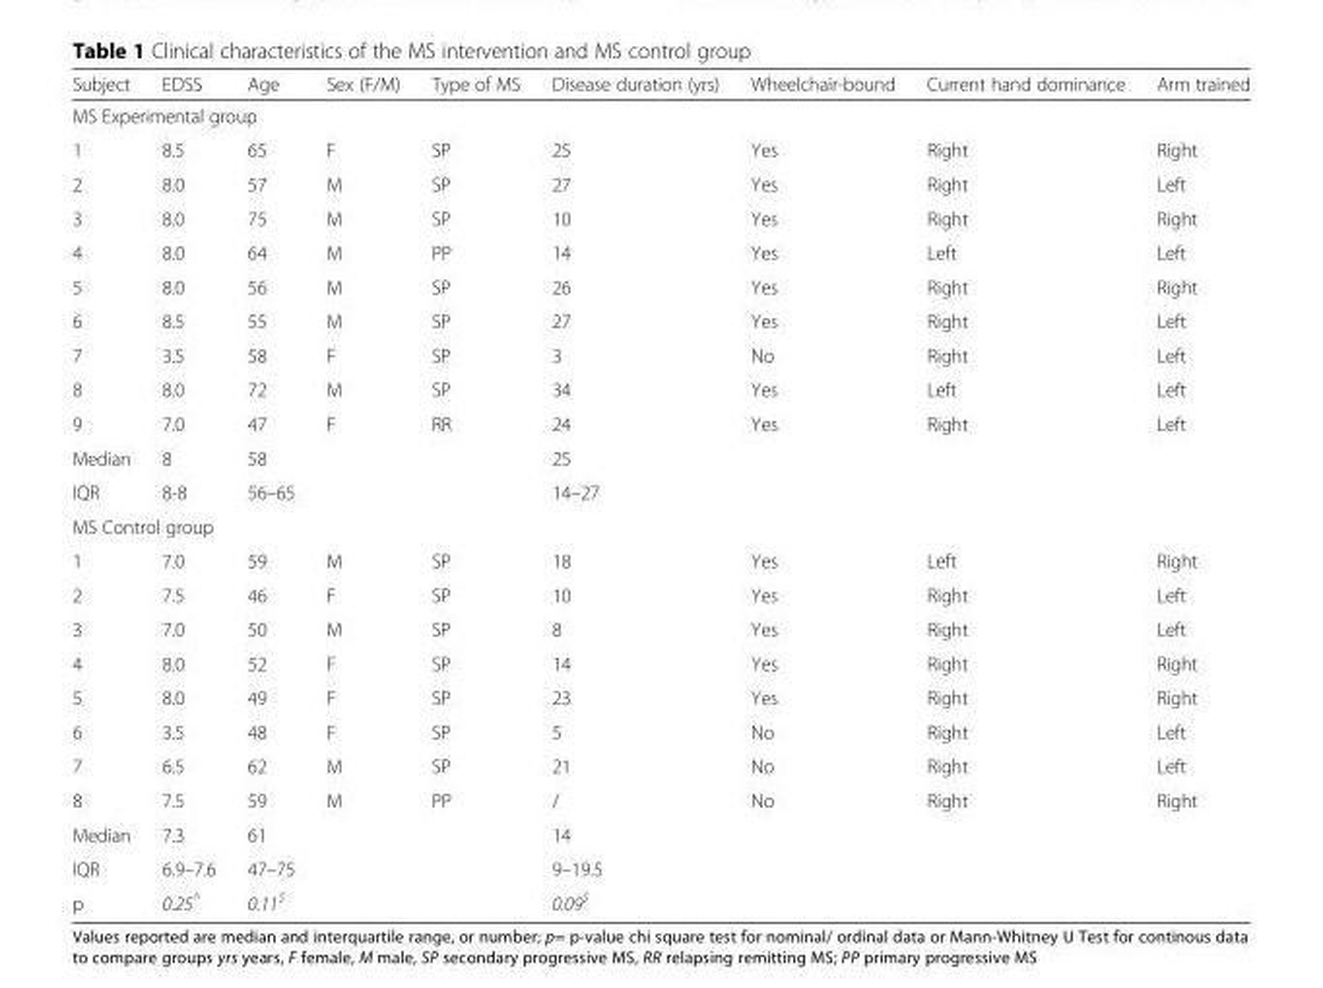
<table><thead><tr><td>Subject</td><td>EDSS</td><td>Age</td><td>Sex (F/M)</td><td>Type of MS</td><td>Disease duration (yrs)</td><td>Wheelchair-bound</td><td>Current hand dominance</td><td>Arm trained</td></tr></thead><tbody><tr><td colspan="9">MS Experimental group</td></tr><tr><td>1</td><td>8.5</td><td>65</td><td>F</td><td>SP</td><td>25</td><td>Yes</td><td>Right</td><td>Right</td></tr><tr><td>2</td><td>8.0</td><td>57</td><td>M</td><td>SP</td><td>27</td><td>Yes</td><td>Right</td><td>Left</td></tr><tr><td>3</td><td>8.0</td><td>75</td><td>M</td><td>SP</td><td>10</td><td>Yes</td><td>Right</td><td>Right</td></tr><tr><td>4</td><td>8.0</td><td>64</td><td>M</td><td>PP</td><td>14</td><td>Yes</td><td>Left</td><td>Left</td></tr><tr><td>5</td><td>8.0</td><td>56</td><td>M</td><td>SP</td><td>26</td><td>Yes</td><td>Right</td><td>Right</td></tr><tr><td>6</td><td>8.5</td><td>55</td><td>M</td><td>SP</td><td>27</td><td>Yes</td><td>Right</td><td>Left</td></tr><tr><td>7</td><td>3.5</td><td>58</td><td>F</td><td>SP</td><td>3</td><td>No</td><td>Right</td><td>Left</td></tr><tr><td>8</td><td>8.0</td><td>72</td><td>M</td><td>SP</td><td>34</td><td>Yes</td><td>Left</td><td>Left</td></tr><tr><td>9</td><td>7.0</td><td>47</td><td>F</td><td>RR</td><td>24</td><td>Yes</td><td>Right</td><td>Left</td></tr><tr><td>Median</td><td>8</td><td>58</td><td></td><td></td><td>25</td><td></td><td></td><td></td></tr><tr><td>IQR</td><td>8-8</td><td>56–65</td><td></td><td></td><td>14–27</td><td></td><td></td><td></td></tr><tr><td colspan="9">MS Control group</td></tr><tr><td>1</td><td>7.0</td><td>59</td><td>M</td><td>SP</td><td>18</td><td>Yes</td><td>Left</td><td>Right</td></tr><tr><td>2</td><td>7.5</td><td>46</td><td>F</td><td>SP</td><td>10</td><td>Yes</td><td>Right</td><td>Left</td></tr><tr><td>3</td><td>7.0</td><td>50</td><td>M</td><td>SP</td><td>8</td><td>Yes</td><td>Right</td><td>Left</td></tr><tr><td>4</td><td>8.0</td><td>52</td><td>F</td><td>SP</td><td>14</td><td>Yes</td><td>Right</td><td>Right</td></tr><tr><td>5</td><td>8.0</td><td>49</td><td>F</td><td>SP</td><td>23</td><td>Yes</td><td>Right</td><td>Right</td></tr><tr><td>6</td><td>3.5</td><td>48</td><td>F</td><td>SP</td><td>5</td><td>No</td><td>Right</td><td>Left</td></tr><tr><td>7</td><td>6.5</td><td>62</td><td>M</td><td>SP</td><td>21</td><td>No</td><td>Right</td><td>Left</td></tr><tr><td>8</td><td>7.5</td><td>59</td><td>M</td><td>PP</td><td>/</td><td>No</td><td>Right</td><td>Right</td></tr><tr><td>Median</td><td>7.3</td><td>61</td><td></td><td></td><td>14</td><td></td><td></td><td></td></tr><tr><td>IQR</td><td>6.9–7.6</td><td>47–75</td><td></td><td></td><td>9–19.5</td><td></td><td></td><td></td></tr><tr><td>p</td><td>0.25<sup>^</sup></td><td>0.11<sup>$</sup></td><td></td><td></td><td>0.09<sup>$</sup></td><td></td><td></td><td></td></tr></tbody></table>